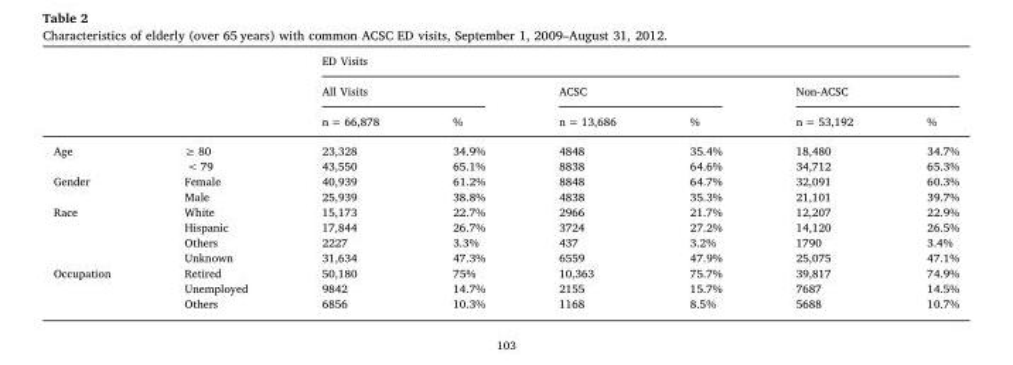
<table><thead><tr><td rowspan="3"></td><td rowspan="3"></td><td colspan="6">ED Visits</td></tr><tr><td colspan="2">All Visits</td><td colspan="2">ACSC</td><td colspan="2">Non-ACSC</td></tr><tr><td>n = 66,878</td><td>%</td><td>n = 13,686</td><td>%</td><td>n = 53,192</td><td>%</td></tr></thead><tbody><tr><td rowspan="2">Age</td><td>≥ 80</td><td>23,328</td><td>34.9%</td><td>4848</td><td>35.4%</td><td>18,480</td><td>34.7%</td></tr><tr><td>&lt; 79</td><td>43,550</td><td>65.1%</td><td>8838</td><td>64.6%</td><td>34,712</td><td>65.3%</td></tr><tr><td rowspan="2">Gender</td><td>Female</td><td>40,939</td><td>61.2%</td><td>8848</td><td>64.7%</td><td>32,091</td><td>60.3%</td></tr><tr><td>Male</td><td>25,939</td><td>38.8%</td><td>4838</td><td>35.3%</td><td>21,101</td><td>39.7%</td></tr><tr><td rowspan="4">Race</td><td>White</td><td>15,173</td><td>22.7%</td><td>2966</td><td>21.7%</td><td>12,207</td><td>22.9%</td></tr><tr><td>Hispanic</td><td>17,844</td><td>26.7%</td><td>3724</td><td>27.2%</td><td>14,120</td><td>26.5%</td></tr><tr><td>Others</td><td>2227</td><td>3.3%</td><td>437</td><td>3.2%</td><td>1790</td><td>3.4%</td></tr><tr><td>Unknown</td><td>31,634</td><td>47.3%</td><td>6559</td><td>47.9%</td><td>25,075</td><td>47.1%</td></tr><tr><td rowspan="3">Occupation</td><td>Retired</td><td>50,180</td><td>75%</td><td>10,363</td><td>75.7%</td><td>39,817</td><td>74.9%</td></tr><tr><td>Unemployed</td><td>9842</td><td>14.7%</td><td>2155</td><td>15.7%</td><td>7687</td><td>14.5%</td></tr><tr><td>Others</td><td>6856</td><td>10.3%</td><td>1168</td><td>8.5%</td><td>5688</td><td>10.7%</td></tr></tbody></table>